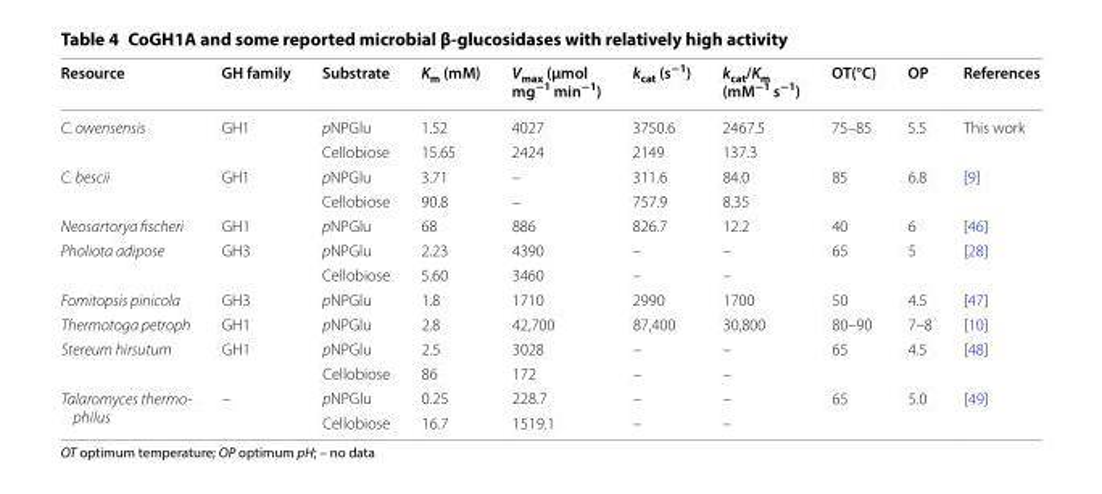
<table><thead><tr><td>Resource</td><td>GH family</td><td>Substrate</td><td>K<sub>m</sub> (mM)</td><td>V<sub>max</sub> (μmol mg<sup>−1</sup> min<sup>−1</sup>)</td><td>k<sub>cat</sub> (s<sup>−1</sup>)</td><td>k<sub>cat</sub>/K<sub>m</sub> (mM<sup>−1</sup> s<sup>−1</sup>)</td><td>OT(°C)</td><td>OP</td><td>References</td></tr></thead><tbody><tr><td rowspan="2">C. owensensis</td><td rowspan="2">GH1</td><td>pNPGlu</td><td>1.52</td><td>4027</td><td>3750.6</td><td>2467.5</td><td rowspan="2">75–85</td><td rowspan="2">5.5</td><td rowspan="2">This work</td></tr><tr><td>Cellobiose</td><td>15.65</td><td>2424</td><td>2149</td><td>137.3</td></tr><tr><td rowspan="2">C. bescii</td><td rowspan="2">GH1</td><td>pNPGlu</td><td>3.71</td><td>–</td><td>311.6</td><td>84.0</td><td rowspan="2">85</td><td rowspan="2">6.8</td><td rowspan="2">[9]</td></tr><tr><td>Cellobiose</td><td>90.8</td><td>–</td><td>757.9</td><td>8.35</td></tr><tr><td>Neosartorya fischeri</td><td>GH1</td><td>pNPGlu</td><td>68</td><td>886</td><td>826.7</td><td>12.2</td><td>40</td><td>6</td><td>[46]</td></tr><tr><td rowspan="2">Pholiota adipose</td><td rowspan="2">GH3</td><td>pNPGlu</td><td>2.23</td><td>4390</td><td>–</td><td>–</td><td rowspan="2">65</td><td rowspan="2">5</td><td rowspan="2">[28]</td></tr><tr><td>Cellobiose</td><td>5.60</td><td>3460</td><td>–</td><td>–</td></tr><tr><td>Fomitopsis pinicola</td><td>GH3</td><td>pNPGlu</td><td>1.8</td><td>1710</td><td>2990</td><td>1700</td><td>50</td><td>4.5</td><td>[47]</td></tr><tr><td>Thermotoga petroph</td><td>GH1</td><td>pNPGlu</td><td>2.8</td><td>42,700</td><td>87,400</td><td>30,800</td><td>80–90</td><td>7–8</td><td>[10]</td></tr><tr><td rowspan="2">Stereum hirsutum</td><td rowspan="2">GH1</td><td>pNPGlu</td><td>2.5</td><td>3028</td><td>–</td><td>–</td><td rowspan="2">65</td><td rowspan="2">4.5</td><td rowspan="2">[48]</td></tr><tr><td>Cellobiose</td><td>86</td><td>172</td><td>–</td><td>–</td></tr><tr><td rowspan="2">Talaromyces thermo- philus</td><td rowspan="2">–</td><td>pNPGlu</td><td>0.25</td><td>228.7</td><td>–</td><td>–</td><td rowspan="2">65</td><td rowspan="2">5.0</td><td rowspan="2">[49]</td></tr><tr><td>Cellobiose</td><td>16.7</td><td>1519.1</td><td>–</td><td>–</td></tr></tbody></table>